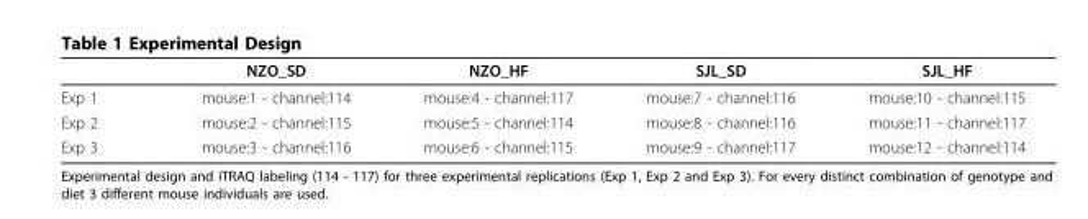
<table><thead><tr><td></td><td>NZO_SD</td><td>NZO_HF</td><td>SJL_SD</td><td>SJL_HF</td></tr></thead><tbody><tr><td>Exp 1</td><td>mouse:1 - channel:114</td><td>mouse:4 - channel:117</td><td>mouse:7 - channel:116</td><td>mouse:10 - channel:115</td></tr><tr><td>Exp 2</td><td>mouse:2 - channel:115</td><td>mouse:5 - channel:114</td><td>mouse:8 - channel:116</td><td>mouse:11 - channel:117</td></tr><tr><td>Exp 3</td><td>mouse:3 - channel:116</td><td>mouse:6 - channel:115</td><td>mouse:9 - channel:117</td><td>mouse:12 - channel:114</td></tr></tbody></table>